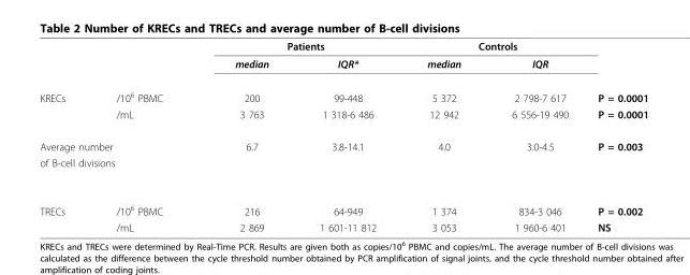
<table><thead><tr><td rowspan="2"></td><td rowspan="2"></td><td colspan="2">Patients</td><td colspan="2">Controls</td><td rowspan="2"></td></tr><tr><td>median</td><td>IQR*</td><td>median</td><td>IQR</td></tr></thead><tbody><tr><td rowspan="2">KRECs</td><td>/10<sup>6</sup> PBMC</td><td>200</td><td>99-448</td><td>5 372</td><td>2 798-7 617</td><td>P = 0.0001</td></tr><tr><td>/mL</td><td>3 763</td><td>1 318-6 486</td><td>12 942</td><td>6 556-19 490</td><td>P = 0.0001</td></tr><tr><td colspan="2">Average number</td><td>6.7</td><td>3.8-14.1</td><td>4.0</td><td>3.0-4.5</td><td>P = 0.003</td></tr><tr><td colspan="7">of B-cell divisions</td></tr><tr><td rowspan="2">TRECs</td><td>/10<sup>6</sup> PBMC</td><td>216</td><td>64-949</td><td>1 374</td><td>834-3 046</td><td>P = 0.002</td></tr><tr><td>/mL</td><td>2 869</td><td>1 601-11 812</td><td>3 053</td><td>1 960-6 401</td><td>NS</td></tr></tbody></table>